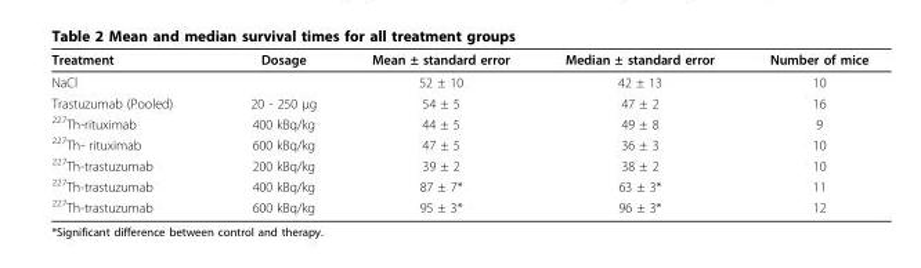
<table><thead><tr><td>Treatment</td><td>Dosage</td><td>Mean ± standard error</td><td>Median ± standard error</td><td>Number of mice</td></tr></thead><tbody><tr><td>NaCl</td><td></td><td>52 ± 10</td><td>42 ± 13</td><td>10</td></tr><tr><td>Trastuzumab (Pooled)</td><td>20 - 250 μg</td><td>54 ± 5</td><td>47 ± 2</td><td>16</td></tr><tr><td><sup>227</sup>Th-rituximab</td><td>400 kBq/kg</td><td>44 ± 5</td><td>49 ± 8</td><td>9</td></tr><tr><td><sup>227</sup>Th- rituximab</td><td>600 kBq/kg</td><td>47 ± 5</td><td>36 ± 3</td><td>10</td></tr><tr><td><sup>227</sup>Th-trastuzumab</td><td>200 kBq/kg</td><td>39 ± 2</td><td>38 ± 2</td><td>10</td></tr><tr><td><sup>227</sup>Th-trastuzumab</td><td>400 kBq/kg</td><td>87 ± 7*</td><td>63 ± 3*</td><td>11</td></tr><tr><td><sup>227</sup>Th-trastuzumab</td><td>600 kBq/kg</td><td>95 ± 3*</td><td>96 ± 3*</td><td>12</td></tr></tbody></table>